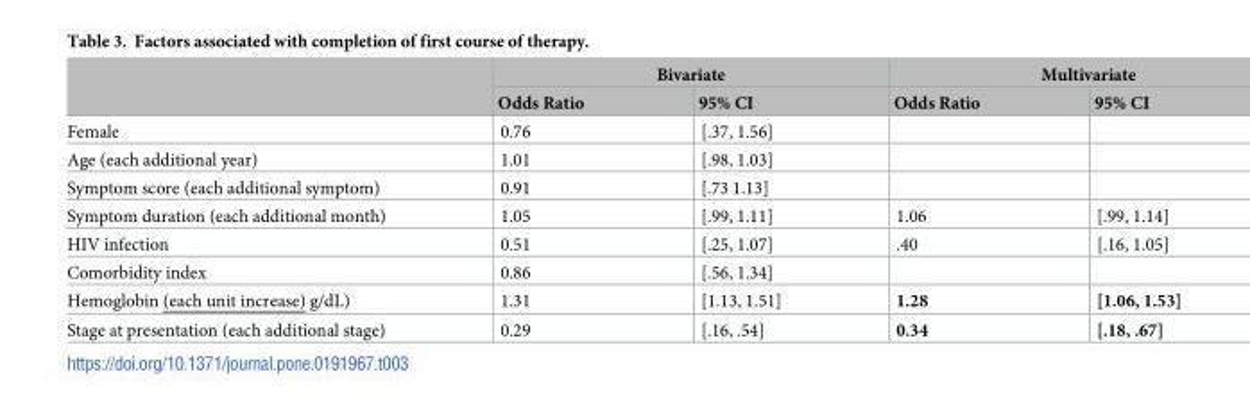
<table><thead><tr><td rowspan="2"></td><td colspan="2">Bivariate</td><td colspan="2">Multivariate</td></tr><tr><td>Odds Ratio</td><td>95% CI</td><td>Odds Ratio</td><td>95% CI</td></tr></thead><tbody><tr><td>Female</td><td>0.76</td><td>[.37, 1.56]</td><td></td><td></td></tr><tr><td>Age (each additional year)</td><td>1.01</td><td>[.98, 1.03]</td><td></td><td></td></tr><tr><td>Symptom score (each additional symptom)</td><td>0.91</td><td>[.73 1.13]</td><td></td><td></td></tr><tr><td>Symptom duration (each additional month)</td><td>1.05</td><td>[.99, 1.11]</td><td>1.06</td><td>[.99, 1.14]</td></tr><tr><td>HIV infection</td><td>0.51</td><td>[.25, 1.07]</td><td>.40</td><td>[.16, 1.05]</td></tr><tr><td>Comorbidity index</td><td>0.86</td><td>[.56, 1.34]</td><td></td><td></td></tr><tr><td>Hemoglobin (each unit increase) g/dL)</td><td>1.31</td><td>[1.13, 1.51]</td><td>1.28</td><td>[1.06, 1.53]</td></tr><tr><td>Stage at presentation (each additional stage)</td><td>0.29</td><td>[.16, .54]</td><td>0.34</td><td>[.18, .67]</td></tr></tbody></table>